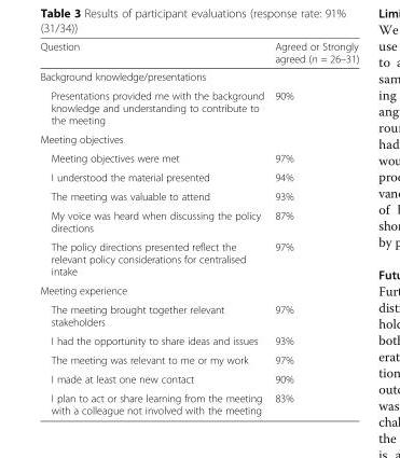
<table><thead><tr><td>Question</td><td>Agreed or Strongly agreed (n = 26–31)</td></tr></thead><tbody><tr><td colspan="2">Background knowledge/presentations</td></tr><tr><td>Presentations provided me with the background knowledge and understanding to contribute to the meeting</td><td>90%</td></tr><tr><td colspan="2">Meeting objectives</td></tr><tr><td>Meeting objectives were met</td><td>97%</td></tr><tr><td>I understood the material presented</td><td>94%</td></tr><tr><td>The meeting was valuable to attend</td><td>93%</td></tr><tr><td>My voice was heard when discussing the policy directions</td><td>87%</td></tr><tr><td>The policy directions presented reflect the relevant policy considerations for centralised intake</td><td>97%</td></tr><tr><td colspan="2">Meeting experience</td></tr><tr><td>The meeting brought together relevant stakeholders</td><td>97%</td></tr><tr><td>I had the opportunity to share ideas and issues</td><td>93%</td></tr><tr><td>The meeting was relevant to me or my work</td><td>97%</td></tr><tr><td>I made at least one new contact</td><td>90%</td></tr><tr><td>I plan to act or share learning from the meeting with a colleague not involved with the meeting</td><td>83%</td></tr></tbody></table>